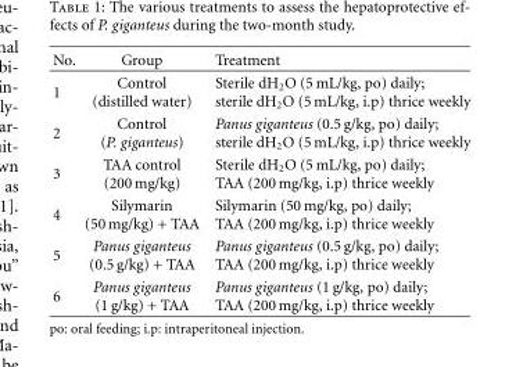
<table><thead><tr><td>No.</td><td>Group</td><td>Treatment</td></tr></thead><tbody><tr><td>1</td><td>Control (distilled water)</td><td>Sterile dH<sub>2</sub>O (5 mL/kg, po) daily; sterile dH<sub>2</sub>O (5 mL/kg, i.p) thrice weekly</td></tr><tr><td>2</td><td>Control (P. giganteus)</td><td>Panus giganteus (0.5 g/kg, po) daily; sterile dH<sub>2</sub>O (5 mL/kg, i.p) thrice weekly</td></tr><tr><td>3</td><td>TAA control (200 mg/kg)</td><td>Sterile dH<sub>2</sub>O (5 mL/kg, po) daily; TAA (200 mg/kg, i.p) thrice weekly</td></tr><tr><td>4</td><td>Silymarin (50 mg/kg) + TAA</td><td>Silymarin (50 mg/kg, po) daily; TAA (200 mg/kg, i.p) thrice weekly</td></tr><tr><td>5</td><td>Panus giganteus (0.5 g/kg) + TAA</td><td>Panus giganteus (0.5 g/kg, po) daily; TAA (200 mg/kg, i.p) thrice weekly</td></tr><tr><td>6</td><td>Panus giganteus (1 g/kg) + TAA</td><td>Panus giganteus (1 g/kg, po) daily; TAA (200 mg/kg, i.p) thrice weekly</td></tr></tbody></table>